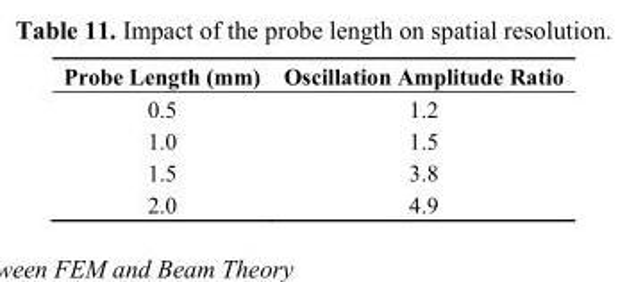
<table><thead><tr><td>Probe Length (mm)</td><td>Oscillation Amplitude Ratio</td></tr></thead><tbody><tr><td>0.5</td><td>1.2</td></tr><tr><td>1.0</td><td>1.5</td></tr><tr><td>1.5</td><td>3.8</td></tr><tr><td>2.0</td><td>4.9</td></tr></tbody></table>